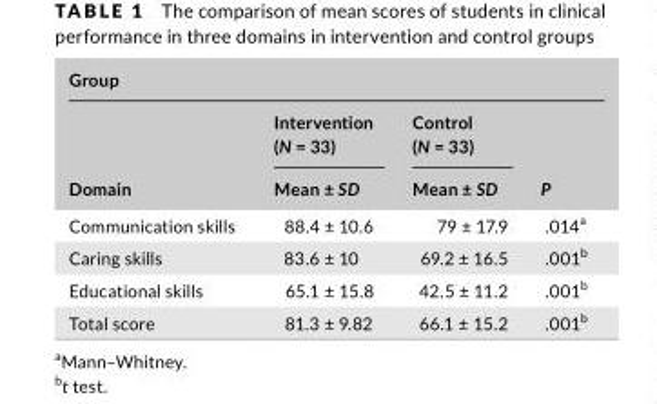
<table><thead><tr><td colspan="4">Group</td></tr><tr><td rowspan="2">Domain</td><td rowspan="2">Intervention (N = 33) Mean ± SD</td><td rowspan="2">Control (N = 33) Mean ± SD</td><td rowspan="2">P</td></tr><tr></tr></thead><tbody><tr><td>Communication skills</td><td>88.4 ± 10.6</td><td>79 ± 17.9</td><td>.014<sup>a</sup></td></tr><tr><td>Caring skills</td><td>83.6 ± 10</td><td>69.2 ± 16.5</td><td>.001<sup>b</sup></td></tr><tr><td>Educational skills</td><td>65.1 ± 15.8</td><td>42.5 ± 11.2</td><td>.001<sup>b</sup></td></tr><tr><td>Total score</td><td>81.3 ± 9.82</td><td>66.1 ± 15.2</td><td>.001<sup>b</sup></td></tr></tbody></table>